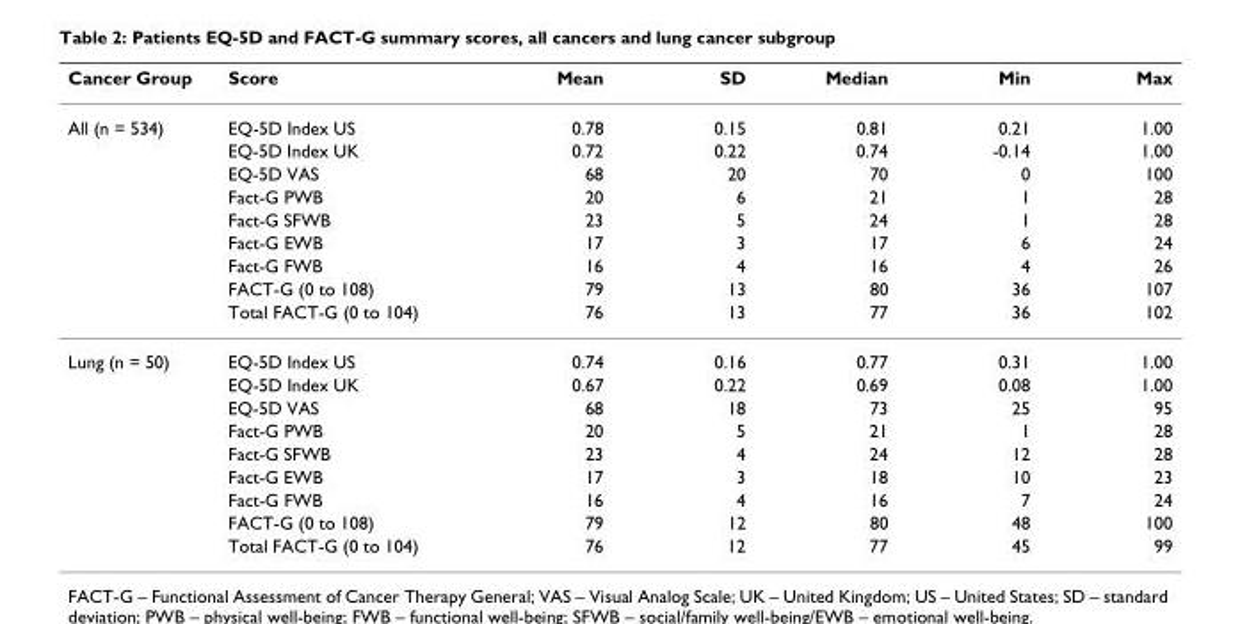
<table><thead><tr><td>Cancer Group</td><td>Score</td><td>Mean</td><td>SD</td><td>Median</td><td>Min</td><td>Max</td></tr></thead><tbody><tr><td rowspan="9">All (n = 534)</td><td>EQ-5D Index US</td><td>0.78</td><td>0.15</td><td>0.81</td><td>0.21</td><td>1.00</td></tr><tr><td>EQ-5D Index UK</td><td>0.72</td><td>0.22</td><td>0.74</td><td>-0.14</td><td>1.00</td></tr><tr><td>EQ-5D VAS</td><td>68</td><td>20</td><td>70</td><td>0</td><td>100</td></tr><tr><td>Fact-G PWB</td><td>20</td><td>6</td><td>21</td><td>1</td><td>28</td></tr><tr><td>Fact-G SFWB</td><td>23</td><td>5</td><td>24</td><td>1</td><td>28</td></tr><tr><td>Fact-G EWB</td><td>17</td><td>3</td><td>17</td><td>6</td><td>24</td></tr><tr><td>Fact-G FWB</td><td>16</td><td>4</td><td>16</td><td>4</td><td>26</td></tr><tr><td>FACT-G (0 to 108)</td><td>79</td><td>13</td><td>80</td><td>36</td><td>107</td></tr><tr><td>Total FACT-G (0 to 104)</td><td>76</td><td>13</td><td>77</td><td>36</td><td>102</td></tr><tr><td rowspan="9">Lung (n = 50)</td><td>EQ-5D Index US</td><td>0.74</td><td>0.16</td><td>0.77</td><td>0.31</td><td>1.00</td></tr><tr><td>EQ-5D Index UK</td><td>0.67</td><td>0.22</td><td>0.69</td><td>0.08</td><td>1.00</td></tr><tr><td>EQ-5D VAS</td><td>68</td><td>18</td><td>73</td><td>25</td><td>95</td></tr><tr><td>Fact-G PWB</td><td>20</td><td>5</td><td>21</td><td>1</td><td>28</td></tr><tr><td>Fact-G SFWB</td><td>23</td><td>4</td><td>24</td><td>12</td><td>28</td></tr><tr><td>Fact-G EWB</td><td>17</td><td>3</td><td>18</td><td>10</td><td>23</td></tr><tr><td>Fact-G FWB</td><td>16</td><td>4</td><td>16</td><td>7</td><td>24</td></tr><tr><td>FACT-G (0 to 108)</td><td>79</td><td>12</td><td>80</td><td>48</td><td>100</td></tr><tr><td>Total FACT-G (0 to 104)</td><td>76</td><td>12</td><td>77</td><td>45</td><td>99</td></tr></tbody></table>